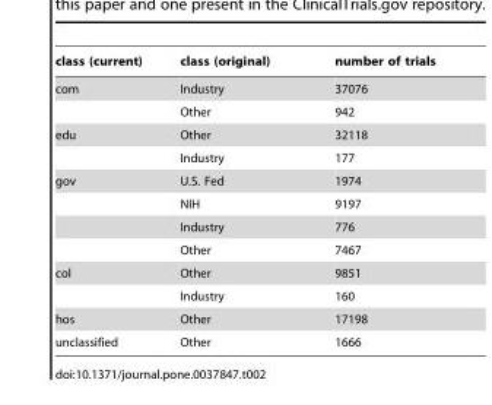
<table><thead><tr><td>class (current)</td><td>class (original)</td><td>number of trials</td></tr></thead><tbody><tr><td rowspan="2">com</td><td>Industry</td><td>37076</td></tr><tr><td>Other</td><td>942</td></tr><tr><td rowspan="2">edu</td><td>Other</td><td>32118</td></tr><tr><td>Industry</td><td>177</td></tr><tr><td rowspan="4">gov</td><td>U.S. Fed</td><td>1974</td></tr><tr><td>NIH</td><td>9197</td></tr><tr><td>Industry</td><td>776</td></tr><tr><td>Other</td><td>7467</td></tr><tr><td rowspan="2">col</td><td>Other</td><td>9851</td></tr><tr><td>Industry</td><td>160</td></tr><tr><td>hos</td><td>Other</td><td>17198</td></tr><tr><td>unclassified</td><td>Other</td><td>1666</td></tr></tbody></table>